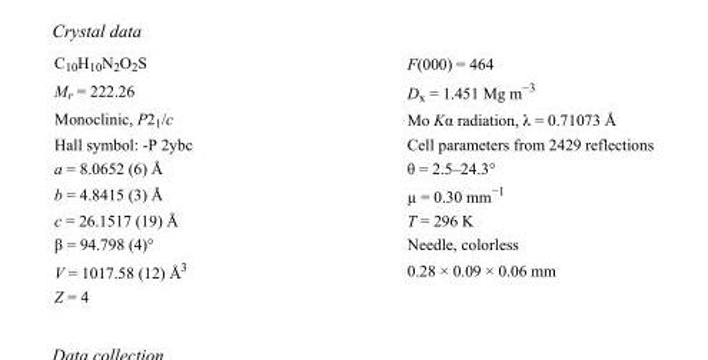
<table><tbody><tr><td>C<sub>10</sub>H<sub>10</sub>N<sub>2</sub>O<sub>2</sub>S</td><td>F(000) = 464</td></tr><tr><td>M<sub>r</sub> = 222.26</td><td>D<sub>x</sub> = 1.451 Mg m<sup>−3</sup></td></tr><tr><td>Monoclinic, P2<sub>1</sub>/c</td><td>Mo Kα radiation, λ = 0.71073 Å</td></tr><tr><td>Hall symbol: -P 2ybc</td><td>Cell parameters from 2429 reflections</td></tr><tr><td>a = 8.0652 (6) Å</td><td>θ = 2.5–24.3°</td></tr><tr><td>b = 4.8415 (3) Å</td><td>µ = 0.30 mm<sup>−1</sup></td></tr><tr><td>c = 26.1517 (19) Å</td><td>T = 296 K</td></tr><tr><td>β = 94.798 (4)°</td><td>Needle, colorless</td></tr><tr><td>V = 1017.58 (12) Å<sup>3</sup></td><td>0.28 × 0.09 × 0.06 mm</td></tr><tr><td>Z = 4</td><td></td></tr></tbody></table>